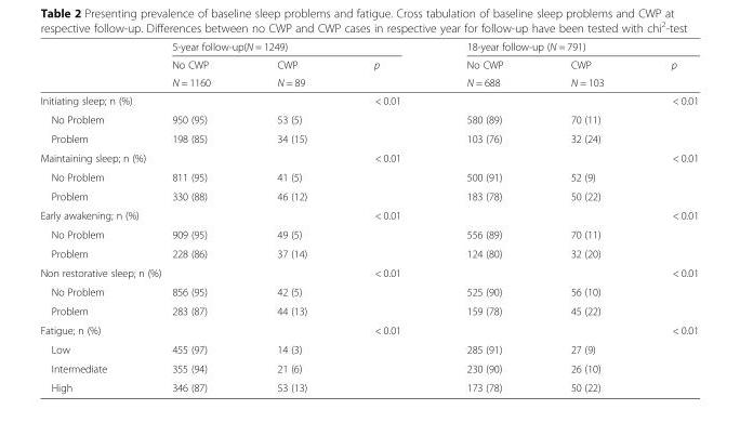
<table><thead><tr><td rowspan="3"></td><td colspan="3">5-year follow-up(N = 1249)</td><td colspan="3">18-year follow-up (N = 791)</td></tr><tr><td rowspan="2">No CWP N = 1160</td><td rowspan="2">CWP N = 89</td><td rowspan="2">p</td><td rowspan="2">No CWP N = 688</td><td rowspan="2">CWP N = 103</td><td rowspan="2">p</td></tr><tr></tr></thead><tbody><tr><td colspan="3">Initiating sleep; n (%)</td><td>&lt; 0.01</td><td></td><td></td><td>&lt; 0.01</td></tr><tr><td>No Problem</td><td>950 (95)</td><td>53 (5)</td><td></td><td>580 (89)</td><td>70 (11)</td><td></td></tr><tr><td>Problem</td><td>198 (85)</td><td>34 (15)</td><td></td><td>103 (76)</td><td>32 (24)</td><td></td></tr><tr><td colspan="3">Maintaining sleep; n (%)</td><td>&lt; 0.01</td><td></td><td></td><td>&lt; 0.01</td></tr><tr><td>No Problem</td><td>811 (95)</td><td>41 (5)</td><td></td><td>500 (91)</td><td>52 (9)</td><td></td></tr><tr><td>Problem</td><td>330 (88)</td><td>46 (12)</td><td></td><td>183 (78)</td><td>50 (22)</td><td></td></tr><tr><td colspan="3">Early awakening; n (%)</td><td>&lt; 0.01</td><td></td><td></td><td>&lt; 0.01</td></tr><tr><td>No Problem</td><td>909 (95)</td><td>49 (5)</td><td></td><td>556 (89)</td><td>70 (11)</td><td></td></tr><tr><td>Problem</td><td>228 (86)</td><td>37 (14)</td><td></td><td>124 (80)</td><td>32 (20)</td><td></td></tr><tr><td colspan="3">Non restorative sleep; n (%)</td><td>&lt; 0.01</td><td></td><td></td><td>&lt; 0.01</td></tr><tr><td>No Problem</td><td>856 (95)</td><td>42 (5)</td><td></td><td>525 (90)</td><td>56 (10)</td><td></td></tr><tr><td>Problem</td><td>283 (87)</td><td>44 (13)</td><td></td><td>159 (78)</td><td>45 (22)</td><td></td></tr><tr><td colspan="2">Fatigue; n (%)</td><td></td><td>&lt; 0.01</td><td></td><td></td><td>&lt; 0.01</td></tr><tr><td>Low</td><td>455 (97)</td><td>14 (3)</td><td></td><td>285 (91)</td><td>27 (9)</td><td></td></tr><tr><td>Intermediate</td><td>355 (94)</td><td>21 (6)</td><td></td><td>230 (90)</td><td>26 (10)</td><td></td></tr><tr><td>High</td><td>346 (87)</td><td>53 (13)</td><td></td><td>173 (78)</td><td>50 (22)</td><td></td></tr></tbody></table>